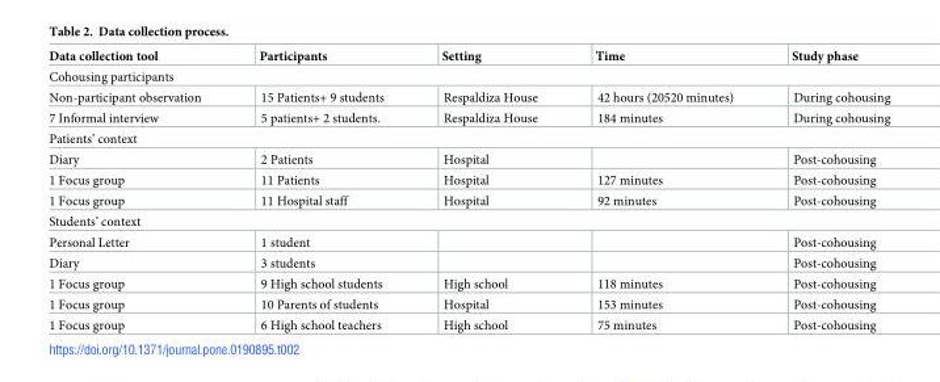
<table><thead><tr><td>Data collection tool</td><td>Participants</td><td>Setting</td><td>Time</td><td>Study phase</td></tr></thead><tbody><tr><td colspan="5">Cohousing participants</td></tr><tr><td>Non-participant observation</td><td>15 Patients+ 9 students</td><td>Respaldiza House</td><td>42 hours (20520 minutes)</td><td>During cohousing</td></tr><tr><td>7 Informal interview</td><td>5 patients+ 2 students.</td><td>Respaldiza House</td><td>184 minutes</td><td>During cohousing</td></tr><tr><td colspan="5">Patients’ context</td></tr><tr><td>Diary</td><td>2 Patients</td><td>Hospital</td><td></td><td>Post-cohousing</td></tr><tr><td>1 Focus group</td><td>11 Patients</td><td>Hospital</td><td>127 minutes</td><td>Post-cohousing</td></tr><tr><td>1 Focus group</td><td>11 Hospital staff</td><td>Hospital</td><td>92 minutes</td><td>Post-cohousing</td></tr><tr><td colspan="5">Students’ context</td></tr><tr><td>Personal Letter</td><td>1 student</td><td></td><td></td><td>Post-cohousing</td></tr><tr><td>Diary</td><td>3 students</td><td></td><td></td><td>Post-cohousing</td></tr><tr><td>1 Focus group</td><td>9 High school students</td><td>High school</td><td>118 minutes</td><td>Post-cohousing</td></tr><tr><td>1 Focus group</td><td>10 Parents of students</td><td>Hospital</td><td>153 minutes</td><td>Post-cohousing</td></tr><tr><td>1 Focus group</td><td>6 High school teachers</td><td>High school</td><td>75 minutes</td><td>Post-cohousing</td></tr></tbody></table>